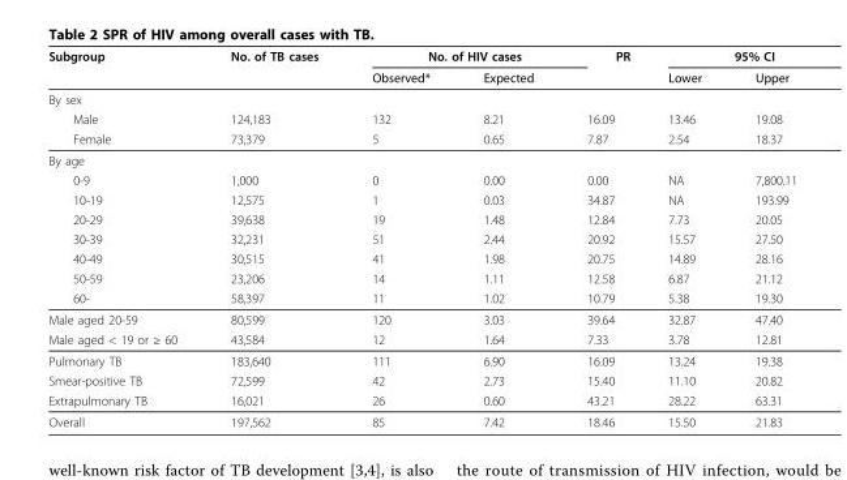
<table><thead><tr><td rowspan="2">Subgroup</td><td rowspan="2">No. of TB cases</td><td colspan="2">No. of HIV cases</td><td rowspan="2">PR</td><td colspan="2">95% CI</td></tr><tr><td>Observed*</td><td>Expected</td><td>Lower</td><td>Upper</td></tr></thead><tbody><tr><td colspan="7">By sex</td></tr><tr><td>Male</td><td>124,183</td><td>132</td><td>8.21</td><td>16.09</td><td>13.46</td><td>19.08</td></tr><tr><td>Female</td><td>73,379</td><td>5</td><td>0.65</td><td>7.87</td><td>2.54</td><td>18.37</td></tr><tr><td colspan="7">By age</td></tr><tr><td>0-9</td><td>1,000</td><td>0</td><td>0.00</td><td>0.00</td><td>NA</td><td>7,800.11</td></tr><tr><td>10-19</td><td>12,575</td><td>1</td><td>0.03</td><td>34.87</td><td>NA</td><td>193.99</td></tr><tr><td>20-29</td><td>39,638</td><td>19</td><td>1.48</td><td>12.84</td><td>7.73</td><td>20.05</td></tr><tr><td>30-39</td><td>32,231</td><td>51</td><td>2.44</td><td>20.92</td><td>15.57</td><td>27.50</td></tr><tr><td>40-49</td><td>30,515</td><td>41</td><td>1.98</td><td>20.75</td><td>14.89</td><td>28.16</td></tr><tr><td>50-59</td><td>23,206</td><td>14</td><td>1.11</td><td>12.58</td><td>6.87</td><td>21.12</td></tr><tr><td>60-</td><td>58,397</td><td>11</td><td>1.02</td><td>10.79</td><td>5.38</td><td>19.30</td></tr><tr><td>Male aged 20-59</td><td>80,599</td><td>120</td><td>3.03</td><td>39.64</td><td>32.87</td><td>47.40</td></tr><tr><td>Male aged &lt; 19 or ≥ 60</td><td>43,584</td><td>12</td><td>1.64</td><td>7.33</td><td>3.78</td><td>12.81</td></tr><tr><td>Pulmonary TB</td><td>183,640</td><td>111</td><td>6.90</td><td>16.09</td><td>13.24</td><td>19.38</td></tr><tr><td>Smear-positive TB</td><td>72,599</td><td>42</td><td>2.73</td><td>15.40</td><td>11.10</td><td>20.82</td></tr><tr><td>Extrapulmonary TB</td><td>16,021</td><td>26</td><td>0.60</td><td>43.21</td><td>28.22</td><td>63.31</td></tr><tr><td>Overall</td><td>197,562</td><td>85</td><td>7.42</td><td>18.46</td><td>15.50</td><td>21.83</td></tr></tbody></table>